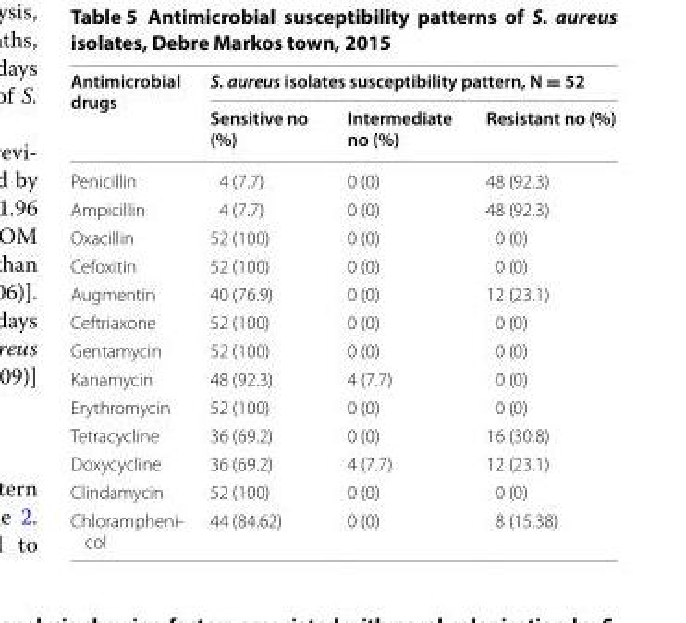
<table><thead><tr><td rowspan="2">Antimicrobial drugs</td><td colspan="3">S. aureus isolates susceptibility pattern, N = 52</td></tr><tr><td>Sensitive no (%)</td><td>Intermediate no (%)</td><td>Resistant no (%)</td></tr></thead><tbody><tr><td>Penicillin</td><td>4 (7.7)</td><td>0 (0)</td><td>48 (92.3)</td></tr><tr><td>Ampicillin</td><td>4 (7.7)</td><td>0 (0)</td><td>48 (92.3)</td></tr><tr><td>Oxacillin</td><td>52 (100)</td><td>0 (0)</td><td>0 (0)</td></tr><tr><td>Cefoxitin</td><td>52 (100)</td><td>0 (0)</td><td>0 (0)</td></tr><tr><td>Augmentin</td><td>40 (76.9)</td><td>0 (0)</td><td>12 (23.1)</td></tr><tr><td>Ceftriaxone</td><td>52 (100)</td><td>0 (0)</td><td>0 (0)</td></tr><tr><td>Gentamycin</td><td>52 (100)</td><td>0 (0)</td><td>0 (0)</td></tr><tr><td>Kanamycin</td><td>48 (92.3)</td><td>4 (7.7)</td><td>0 (0)</td></tr><tr><td>Erythromycin</td><td>52 (100)</td><td>0 (0)</td><td>0 (0)</td></tr><tr><td>Tetracycline</td><td>36 (69.2)</td><td>0 (0)</td><td>16 (30.8)</td></tr><tr><td>Doxycycline</td><td>36 (69.2)</td><td>4 (7.7)</td><td>12 (23.1)</td></tr><tr><td>Clindamycin</td><td>52 (100)</td><td>0 (0)</td><td>0 (0)</td></tr><tr><td>Chlorampheni- col</td><td>44 (84.62)</td><td>0 (0)</td><td>8 (15.38)</td></tr></tbody></table>